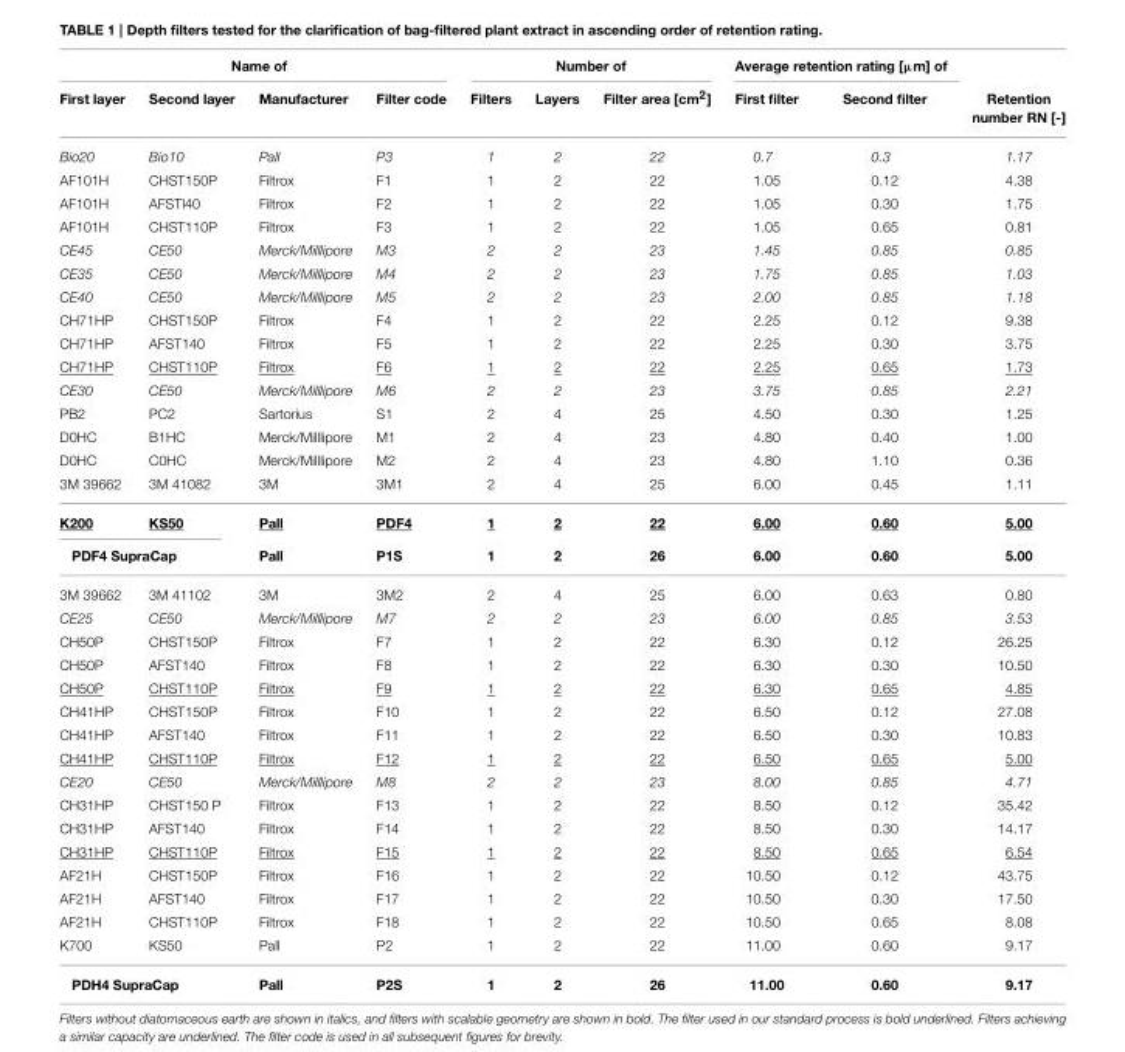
<table><thead><tr><td colspan="4">Name of</td><td colspan="3">Number of</td><td colspan="2">Average retention rating [µm] of</td><td rowspan="2">Retention number RN [-]</td></tr><tr><td>First layer</td><td>Second layer</td><td>Manufacturer</td><td>Filter code</td><td>Filters</td><td>Layers</td><td>Filter area [cm<sup>2</sup>]</td><td>First filter</td><td>Second filter</td></tr></thead><tbody><tr><td>Bio20</td><td>Bio10</td><td>Pall</td><td>P3</td><td>1</td><td>2</td><td>22</td><td>0.7</td><td>0.3</td><td>1.17</td></tr><tr><td>AF101H</td><td>CHST150P</td><td>Filtrox</td><td>F1</td><td>1</td><td>2</td><td>22</td><td>1.05</td><td>0.12</td><td>4.38</td></tr><tr><td>AF101H</td><td>AFSTI40</td><td>Filtrox</td><td>F2</td><td>1</td><td>2</td><td>22</td><td>1.05</td><td>0.30</td><td>1.75</td></tr><tr><td>AF101H</td><td>CHST110P</td><td>Filtrox</td><td>F3</td><td>1</td><td>2</td><td>22</td><td>1.05</td><td>0.65</td><td>0.81</td></tr><tr><td>CE45</td><td>CE50</td><td>Merck/Milllipore</td><td>M3</td><td>2</td><td>2</td><td>23</td><td>1.45</td><td>0.85</td><td>0.85</td></tr><tr><td>CE35</td><td>CE50</td><td>Merck/Milllipore</td><td>M4</td><td>2</td><td>2</td><td>23</td><td>1.75</td><td>0.85</td><td>1.03</td></tr><tr><td>CE40</td><td>CE50</td><td>Merck/Milllipore</td><td>M5</td><td>2</td><td>2</td><td>23</td><td>2.00</td><td>0.85</td><td>1.18</td></tr><tr><td>CH71HP</td><td>CHST150P</td><td>Filtrox</td><td>F4</td><td>1</td><td>2</td><td>22</td><td>2.25</td><td>0.12</td><td>9.38</td></tr><tr><td>CH71HP</td><td>AFST140</td><td>Filtrox</td><td>F5</td><td>1</td><td>2</td><td>22</td><td>2.25</td><td>0.30</td><td>3.75</td></tr><tr><td>CH71HP</td><td>CHST110P</td><td>Filtrox</td><td>F6</td><td>1</td><td>2</td><td>22</td><td>2.25</td><td>0.65</td><td>1.73</td></tr><tr><td>CE30</td><td>CE50</td><td>Merck/Milllipore</td><td>M6</td><td>2</td><td>2</td><td>23</td><td>3.75</td><td>0.85</td><td>2.21</td></tr><tr><td>PB2</td><td>PC2</td><td>Sartorius</td><td>S1</td><td>2</td><td>4</td><td>25</td><td>4.50</td><td>0.30</td><td>1.25</td></tr><tr><td>D0HC</td><td>B1HC</td><td>Merck/Milllipore</td><td>M1</td><td>2</td><td>4</td><td>23</td><td>4.80</td><td>0.40</td><td>1.00</td></tr><tr><td>D0HC</td><td>C0HC</td><td>Merck/Milllipore</td><td>M2</td><td>2</td><td>4</td><td>23</td><td>4.80</td><td>1.10</td><td>0.36</td></tr><tr><td>3M 39662</td><td>3M 41082</td><td>3M</td><td>3M1</td><td>2</td><td>4</td><td>25</td><td>6.00</td><td>0.45</td><td>1.11</td></tr><tr><td>K200</td><td>KS50</td><td>Pall</td><td>PDF4</td><td>1</td><td>2</td><td>22</td><td>6.00</td><td>0.60</td><td>5.00</td></tr><tr><td colspan="2">PDF4 SupraCap</td><td>Pall</td><td>P1S</td><td>1</td><td>2</td><td>26</td><td>6.00</td><td>0.60</td><td>5.00</td></tr><tr><td>3M 39662</td><td>3M 41102</td><td>3M</td><td>3M2</td><td>2</td><td>4</td><td>25</td><td>6.00</td><td>0.63</td><td>0.80</td></tr><tr><td>CE25</td><td>CE50</td><td>Merck/Milllipore</td><td>M7</td><td>2</td><td>2</td><td>23</td><td>6.00</td><td>0.85</td><td>3.53</td></tr><tr><td>CH50P</td><td>CHST150P</td><td>Filtrox</td><td>F7</td><td>1</td><td>2</td><td>22</td><td>6.30</td><td>0.12</td><td>26.25</td></tr><tr><td>CH50P</td><td>AFST140</td><td>Filtrox</td><td>F8</td><td>1</td><td>2</td><td>22</td><td>6.30</td><td>0.30</td><td>10.50</td></tr><tr><td>CH50P</td><td>CHST110P</td><td>Filtrox</td><td>F9</td><td>1</td><td>2</td><td>22</td><td>6.30</td><td>0.65</td><td>4.85</td></tr><tr><td>CH41HP</td><td>CHST150P</td><td>Filtrox</td><td>F10</td><td>1</td><td>2</td><td>22</td><td>6.50</td><td>0.12</td><td>27.08</td></tr><tr><td>CH41HP</td><td>AFST140</td><td>Filtrox</td><td>F11</td><td>1</td><td>2</td><td>22</td><td>6.50</td><td>0.30</td><td>10.83</td></tr><tr><td>CH41HP</td><td>CHST110P</td><td>Filtrox</td><td>F12</td><td>1</td><td>2</td><td>22</td><td>6.50</td><td>0.65</td><td>5.00</td></tr><tr><td>CE20</td><td>CE50</td><td>Merck/Milllipore</td><td>M8</td><td>2</td><td>2</td><td>23</td><td>8.00</td><td>0.85</td><td>4.71</td></tr><tr><td>CH31HP</td><td>CHST150 P</td><td>Filtrox</td><td>F13</td><td>1</td><td>2</td><td>22</td><td>8.50</td><td>0.12</td><td>35.42</td></tr><tr><td>CH31HP</td><td>AFST140</td><td>Filtrox</td><td>F14</td><td>1</td><td>2</td><td>22</td><td>8.50</td><td>0.30</td><td>14.17</td></tr><tr><td>CH31HP</td><td>CHST110P</td><td>Filtrox</td><td>F15</td><td>1</td><td>2</td><td>22</td><td>8.50</td><td>0.65</td><td>6.54</td></tr><tr><td>AF21H</td><td>CHST150P</td><td>Filtrox</td><td>F16</td><td>1</td><td>2</td><td>22</td><td>10.50</td><td>0.12</td><td>43.75</td></tr><tr><td>AF21H</td><td>AFST140</td><td>Filtrox</td><td>F17</td><td>1</td><td>2</td><td>22</td><td>10.50</td><td>0.30</td><td>17.50</td></tr><tr><td>AF21H</td><td>CHST110P</td><td>Filtrox</td><td>F18</td><td>1</td><td>2</td><td>22</td><td>10.50</td><td>0.65</td><td>8.08</td></tr><tr><td>K700</td><td>KS50</td><td>Pall</td><td>P2</td><td>1</td><td>2</td><td>22</td><td>11.00</td><td>0.60</td><td>9.17</td></tr><tr><td colspan="2">PDH4 SupraCap</td><td>Pall</td><td>P2S</td><td>1</td><td>2</td><td>26</td><td>11.00</td><td>0.60</td><td>9.17</td></tr></tbody></table>